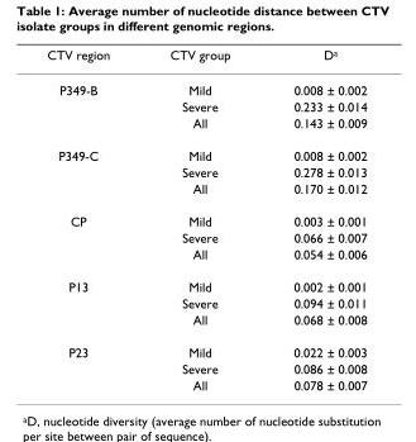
<table><thead><tr><td>CTV region</td><td>CTV group</td><td>D<sup>a</sup></td></tr></thead><tbody><tr><td rowspan="3">P349-B</td><td>Mild</td><td>0.008 ± 0.002</td></tr><tr><td>Severe</td><td>0.233 ± 0.014</td></tr><tr><td>All</td><td>0.143 ± 0.009</td></tr><tr><td rowspan="3">P349-C</td><td>Mild</td><td>0.008 ± 0.002</td></tr><tr><td>Severe</td><td>0.278 ± 0.013</td></tr><tr><td>All</td><td>0.170 ± 0.012</td></tr><tr><td rowspan="3">CP</td><td>Mild</td><td>0.003 ± 0.001</td></tr><tr><td>Severe</td><td>0.066 ± 0.007</td></tr><tr><td>All</td><td>0.054 ± 0.006</td></tr><tr><td rowspan="3">P13</td><td>Mild</td><td>0.002 ± 0.001</td></tr><tr><td>Severe</td><td>0.094 ± 0.011</td></tr><tr><td>All</td><td>0.068 ± 0.008</td></tr><tr><td rowspan="3">P23</td><td>Mild</td><td>0.022 ± 0.003</td></tr><tr><td>Severe</td><td>0.086 ± 0.008</td></tr><tr><td>All</td><td>0.078 ± 0.007</td></tr></tbody></table>